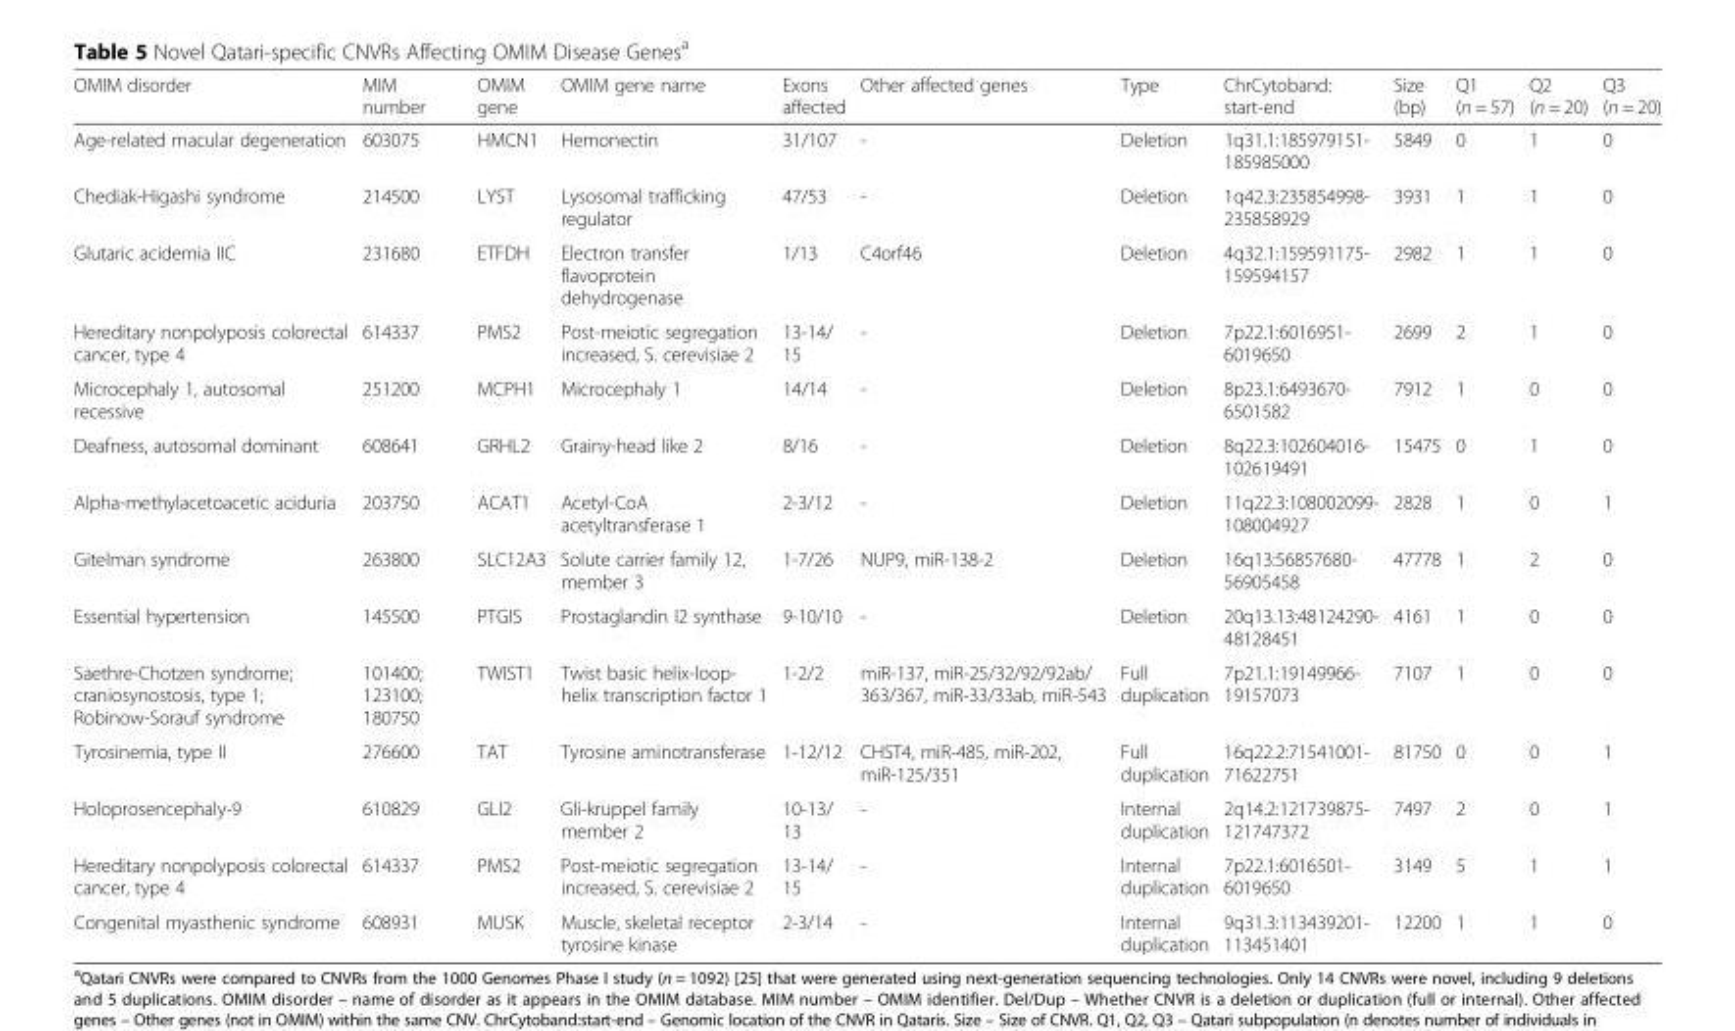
<table><thead><tr><td>OMIM disorder</td><td>MIM number</td><td>OMIM gene</td><td>OMIM gene name</td><td>Exons affected</td><td>Other affected genes</td><td>Type</td><td>ChrCytoband: start-end</td><td>Size (bp)</td><td>Q1 (n = 57)</td><td>Q2 (n = 20)</td><td>Q3 (n = 20)</td></tr></thead><tbody><tr><td>Age-related macular degeneration</td><td>603075</td><td>HMCN1</td><td>Hemonectin</td><td>31/107</td><td>-</td><td>Deletion</td><td>1q31.1:185979151- 185985000</td><td>5849</td><td>0</td><td>1</td><td>0</td></tr><tr><td>Chediak-Higashi syndrome</td><td>214500</td><td>LYST</td><td>Lysosomal trafficking regulator</td><td>47/53</td><td>-</td><td>Deletion</td><td>1q42.3:235854998- 235858929</td><td>3931</td><td>1</td><td>1</td><td>0</td></tr><tr><td>Glutaric acidemia IIC</td><td>231680</td><td>ETFDH</td><td>Electron transfer flavoprotein dehydrogenase</td><td>1/13</td><td>C4orf46</td><td>Deletion</td><td>4q32.1:159591175- 159594157</td><td>2982</td><td>1</td><td>1</td><td>0</td></tr><tr><td>Hereditary nonpolyposis colorectal cancer, type 4</td><td>614337</td><td>PMS2</td><td>Post-meiotic segregation increased, S. cerevisiae 2</td><td>13-14/ 15</td><td>-</td><td>Deletion</td><td>7p22.1:6016951- 6019650</td><td>2699</td><td>2</td><td>1</td><td>0</td></tr><tr><td>Microcephaly 1, autosomal recessive</td><td>251200</td><td>MCPH1</td><td>Microcephaly 1</td><td>14/14</td><td>-</td><td>Deletion</td><td>8p23.1:6493670- 6501582</td><td>7912</td><td>1</td><td>0</td><td>0</td></tr><tr><td>Deafness, autosomal dominant</td><td>608641</td><td>GRHL2</td><td>Grainy-head like 2</td><td>8/16</td><td>-</td><td>Deletion</td><td>8q22.3:102604016- 102619491</td><td>15475</td><td>0</td><td>1</td><td>0</td></tr><tr><td>Alpha-methylacetoacetic aciduria</td><td>203750</td><td>ACAT1</td><td>Acetyl-CoA acetyltransferase 1</td><td>2-3/12</td><td>-</td><td>Deletion</td><td>11q22.3:108002099- 108004927</td><td>2828</td><td>1</td><td>0</td><td>1</td></tr><tr><td>Gitelman syndrome</td><td>263800</td><td>SLC12A3</td><td>Solute carrier family 12, member 3</td><td>1-7/26</td><td>NUP9, miR-138-2</td><td>Deletion</td><td>16q13:56857680- 56905458</td><td>47778</td><td>1</td><td>2</td><td>0</td></tr><tr><td>Essential hypertension</td><td>145500</td><td>PTGIS</td><td>Prostaglandin I2 synthase</td><td>9-10/10</td><td>-</td><td>Deletion</td><td>20q13.13:48124290- 48128451</td><td>4161</td><td>1</td><td>0</td><td>0</td></tr><tr><td>Saethre-Chotzen syndrome; craniosynostosis, type 1; Robinow-Sorauf syndrome</td><td>101400; 123100; 180750</td><td>TWIST1</td><td>Twist basic helix-loop- helix transcription factor 1</td><td>1-2/2</td><td>miR-137, miR-25/32/92/92ab/ 363/367, miR-33/33ab, miR-543</td><td>Full duplication</td><td>7p21.1:19149966- 19157073</td><td>7107</td><td>1</td><td>0</td><td>0</td></tr><tr><td>Tyrosinemia, type II</td><td>276600</td><td>TAT</td><td>Tyrosine aminotransferase</td><td>1-12/12</td><td>CHST4, miR-485, miR-202, miR-125/351</td><td>Full duplication</td><td>16q22.2:71541001- 71622751</td><td>81750</td><td>0</td><td>0</td><td>1</td></tr><tr><td>Holoprosencephaly-9</td><td>610829</td><td>GLI2</td><td>Gli-kruppel family member 2</td><td>10-13/ 13</td><td>-</td><td>Internal duplication</td><td>2q14.2:121739875- 121747372</td><td>7497</td><td>2</td><td>0</td><td>1</td></tr><tr><td>Hereditary nonpolyposis colorectal cancer, type 4</td><td>614337</td><td>PMS2</td><td>Post-meiotic segregation increased, S. cerevisiae 2</td><td>13-14/ 15</td><td>-</td><td>Internal duplication</td><td>7p22.1:6016501- 6019650</td><td>3149</td><td>5</td><td>1</td><td>1</td></tr><tr><td>Congenital myasthenic syndrome</td><td>608931</td><td>MUSK</td><td>Muscle, skeletal receptor tyrosine kinase</td><td>2-3/14</td><td>-</td><td>Internal duplication</td><td>9q31.3:113439201- 113451401</td><td>12200</td><td>1</td><td>1</td><td>0</td></tr></tbody></table>